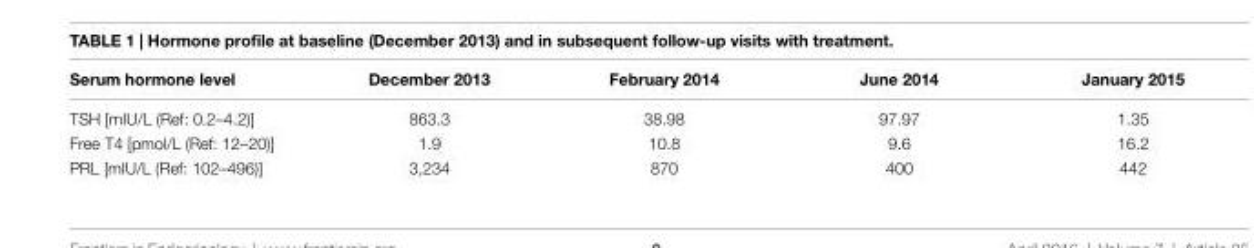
<table><thead><tr><td>serum hormone level</td><td>December 2013</td><td>February 2014</td><td>June 2014</td><td>January 2015</td></tr></thead><tbody><tr><td>TSH [mIU/L (Ref: 0.2–4.2)]</td><td>863.3</td><td>38.98</td><td>97.97</td><td>1.35</td></tr><tr><td>Free T4 [pmol/L (Ref: 12–20)]</td><td>1.9</td><td>10.8</td><td>9.6</td><td>16.2</td></tr><tr><td>PRL [mIU/L (Ref: 102–496)]</td><td>3,234</td><td>870</td><td>400</td><td>442</td></tr></tbody></table>